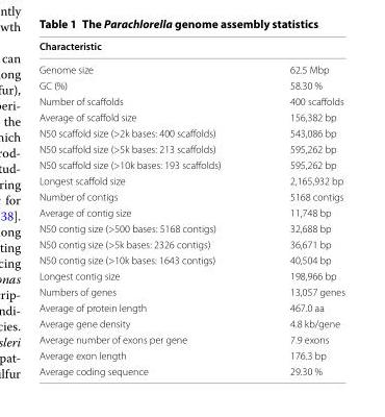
<table><thead><tr><td>Characteristic</td><td></td></tr></thead><tbody><tr><td>Genome size</td><td>62.5 Mbp</td></tr><tr><td>GC (%)</td><td>58.30 %</td></tr><tr><td>Number of scaffolds</td><td>400 scaffolds</td></tr><tr><td>Average of scaffold size</td><td>156,382 bp</td></tr><tr><td>N50 scaffold size (&gt;2k bases: 400 scaffolds)</td><td>543,086 bp</td></tr><tr><td>N50 scaffold size (&gt;5k bases: 213 scaffolds)</td><td>595,262 bp</td></tr><tr><td>N50 scaffold size (&gt;10k bases: 193 scaffolds)</td><td>595,262 bp</td></tr><tr><td>Longest scaffold size</td><td>2,165,932 bp</td></tr><tr><td>Number of contigs</td><td>5168 contigs</td></tr><tr><td>Average of contig size</td><td>11,748 bp</td></tr><tr><td>N50 contig size (&gt;500 bases: 5168 contigs)</td><td>32,688 bp</td></tr><tr><td>N50 contig size (&gt;5k bases: 2326 contigs)</td><td>36,671 bp</td></tr><tr><td>N50 contig size (&gt;10k bases: 1643 contigs)</td><td>40,504 bp</td></tr><tr><td>Longest contig size</td><td>198,966 bp</td></tr><tr><td>Numbers of genes</td><td>13,057 genes</td></tr><tr><td>Average of protein length</td><td>467.0 aa</td></tr><tr><td>Average gene density</td><td>4.8 kb/gene</td></tr><tr><td>Average number of exons per gene</td><td>7.9 exons</td></tr><tr><td>Average exon length</td><td>176.3 bp</td></tr><tr><td>Average coding sequence</td><td>29.30 %</td></tr></tbody></table>